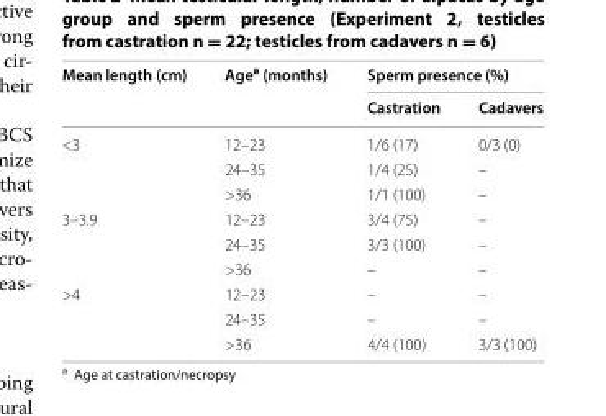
<table><thead><tr><td rowspan="2">Mean length (cm)</td><td rowspan="2">Age<sup>a</sup> (months)</td><td colspan="2">Sperm presence (%)</td></tr><tr><td>Castration</td><td>Cadavers</td></tr></thead><tbody><tr><td rowspan="3">&lt;3</td><td>12–23</td><td>1/6 (17)</td><td>0/3 (0)</td></tr><tr><td>24–35</td><td>1/4 (25)</td><td>–</td></tr><tr><td>&gt;36</td><td>1/1 (100)</td><td>–</td></tr><tr><td rowspan="3">3–3.9</td><td>12–23</td><td>3/4 (75)</td><td>–</td></tr><tr><td>24–35</td><td>3/3 (100)</td><td>–</td></tr><tr><td>&gt;36</td><td>–</td><td>–</td></tr><tr><td rowspan="3">&gt;4</td><td>12–23</td><td>–</td><td>–</td></tr><tr><td>24–35</td><td>–</td><td>–</td></tr><tr><td>&gt;36</td><td>4/4 (100)</td><td>3/3 (100)</td></tr></tbody></table>